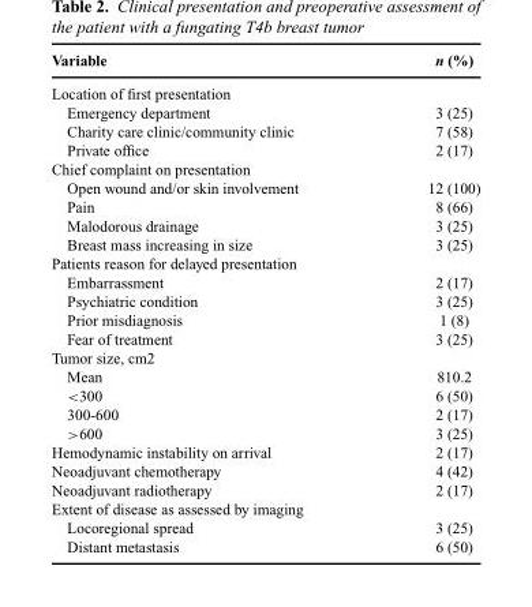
<table><thead><tr><td>Variable</td><td>n (%)</td></tr></thead><tbody><tr><td colspan="2">Location of first presentation</td></tr><tr><td>Emergency department</td><td>3 (25)</td></tr><tr><td>Charity care clinic/community clinic</td><td>7 (58)</td></tr><tr><td>Private office</td><td>2 (17)</td></tr><tr><td colspan="2">Chief complaint on presentation</td></tr><tr><td>Open wound and/or skin involvement</td><td>12 (100)</td></tr><tr><td>Pain</td><td>8 (66)</td></tr><tr><td>Malodorous drainage</td><td>3 (25)</td></tr><tr><td>Breast mass increasing in size</td><td>3 (25)</td></tr><tr><td colspan="2">Patients reason for delayed presentation</td></tr><tr><td>Embarrassment</td><td>2 (17)</td></tr><tr><td>Psychiatric condition</td><td>3 (25)</td></tr><tr><td>Prior misdiagnosis</td><td>1 (8)</td></tr><tr><td>Fear of treatment</td><td>3 (25)</td></tr><tr><td colspan="2">Tumor size, cm2</td></tr><tr><td>Mean</td><td>810.2</td></tr><tr><td>&lt;300</td><td>6 (50)</td></tr><tr><td>300-600</td><td>2 (17)</td></tr><tr><td>&gt;600</td><td>3 (25)</td></tr><tr><td>Hemodynamic instability on arrival</td><td>2 (17)</td></tr><tr><td>Neoadjuvant chemotherapy</td><td>4 (42)</td></tr><tr><td>Neoadjuvant radiotherapy</td><td>2 (17)</td></tr><tr><td colspan="2">Extent of disease as assessed by imaging</td></tr><tr><td>Locoregional spread</td><td>3 (25)</td></tr><tr><td>Distant metastasis</td><td>6 (50)</td></tr></tbody></table>